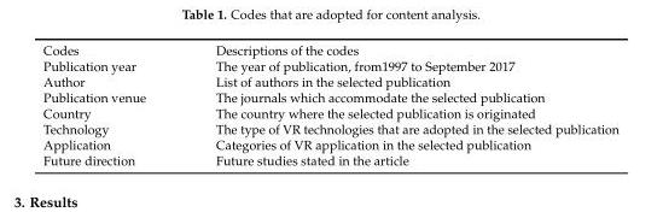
<table><tbody><tr><td>Codes</td><td>Descriptions of the codes</td></tr><tr><td>Publication year</td><td>The year of publication, from1997 to September 2017</td></tr><tr><td>Author</td><td>List of authors in the selected publication</td></tr><tr><td>Publication venue</td><td>The journals which accommodate the selected publication</td></tr><tr><td>Country</td><td>The country where the selected publication is originated</td></tr><tr><td>Technology</td><td>The type of VR technologies that are adopted in the selected publication</td></tr><tr><td>Application</td><td>Categories of VR application in the selected publication</td></tr><tr><td>Future direction</td><td>Future studies stated in the article</td></tr></tbody></table>